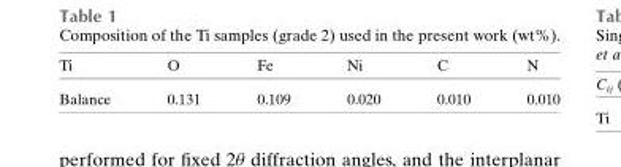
<table><thead><tr><td>Ti</td><td>O</td><td>Fe</td><td>Ni</td><td>C</td><td>N</td></tr></thead><tbody><tr><td>Balance</td><td>0.131</td><td>0.109</td><td>0.020</td><td>0.010</td><td>0.010</td></tr></tbody></table>